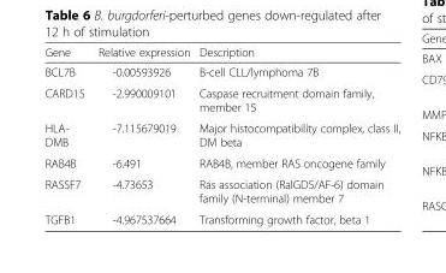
<table><thead><tr><td>Gene</td><td>Relative expression</td><td>Description</td></tr></thead><tbody><tr><td>BCL7B</td><td>-0.00593926</td><td>B-cell CLL/lymphoma 7B</td></tr><tr><td>CARD15</td><td>-2.990009101</td><td>Caspase recruitment domain family, member 15</td></tr><tr><td>HLA- DMB</td><td>-7.115679019</td><td>Major histocompatibility complex, class II, DM beta</td></tr><tr><td>RAB4B</td><td>-6.491</td><td>RAB4B, member RAS oncogene family</td></tr><tr><td>RASSF7</td><td>-4.73653</td><td>Ras association (RalGDS/AF-6) domain family (N-terminal) member 7</td></tr><tr><td>TGFB1</td><td>-4.967537664</td><td>Transforming growth factor, beta 1</td></tr></tbody></table>